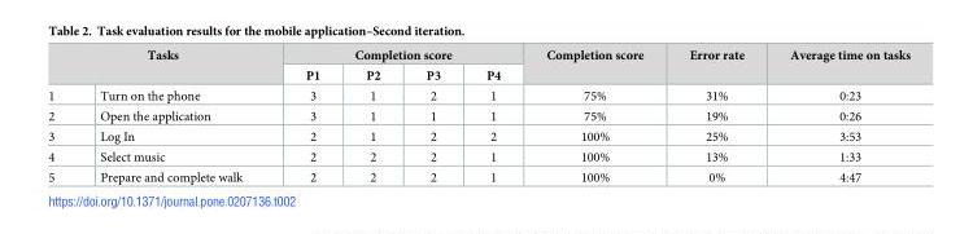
<table><thead><tr><td rowspan="2" colspan="2">Tasks</td><td colspan="4">Completion score</td><td rowspan="3">Completion score 75%</td><td rowspan="3">Error rate 31%</td><td rowspan="3">Average time on tasks 0:23</td></tr><tr><td rowspan="2">P1 3</td><td rowspan="2">P2 1</td><td rowspan="2">P3 2</td><td rowspan="2">P4 1</td></tr><tr><td>1</td><td>Turn on the phone</td></tr></thead><tbody><tr><td>2</td><td>Open the application</td><td>3</td><td>1</td><td>1</td><td>1</td><td>75%</td><td>19%</td><td>0:26</td></tr><tr><td>3</td><td>Log In</td><td>2</td><td>1</td><td>2</td><td>2</td><td>100%</td><td>25%</td><td>3:53</td></tr><tr><td>4</td><td>Select music</td><td>2</td><td>2</td><td>2</td><td>1</td><td>100%</td><td>13%</td><td>1:33</td></tr><tr><td>5</td><td>Prepare and complete walk</td><td>2</td><td>2</td><td>2</td><td>1</td><td>100%</td><td>0%</td><td>4:47</td></tr></tbody></table>